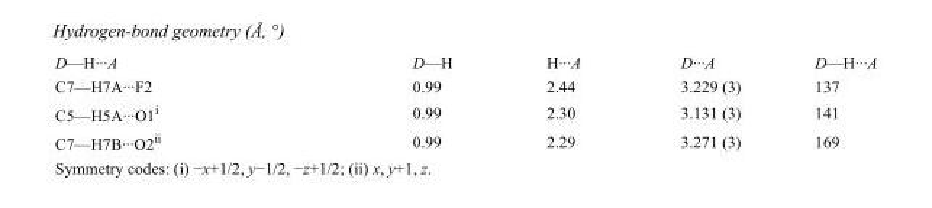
<table><tbody><tr><td>D—H···A</td><td>D—H</td><td>H···A</td><td>D···A</td><td>D—H···A</td></tr><tr><td>C7—H7A···F2</td><td>0.99</td><td>2.44</td><td>3.229 (3)</td><td>137</td></tr><tr><td>C5—H5A···O1<sup>i</sup></td><td>0.99</td><td>2.30</td><td>3.131 (3)</td><td>141</td></tr><tr><td>C7—H7B···O2<sup>ii</sup></td><td>0.99</td><td>2.29</td><td>3.271 (3)</td><td>169</td></tr></tbody></table>